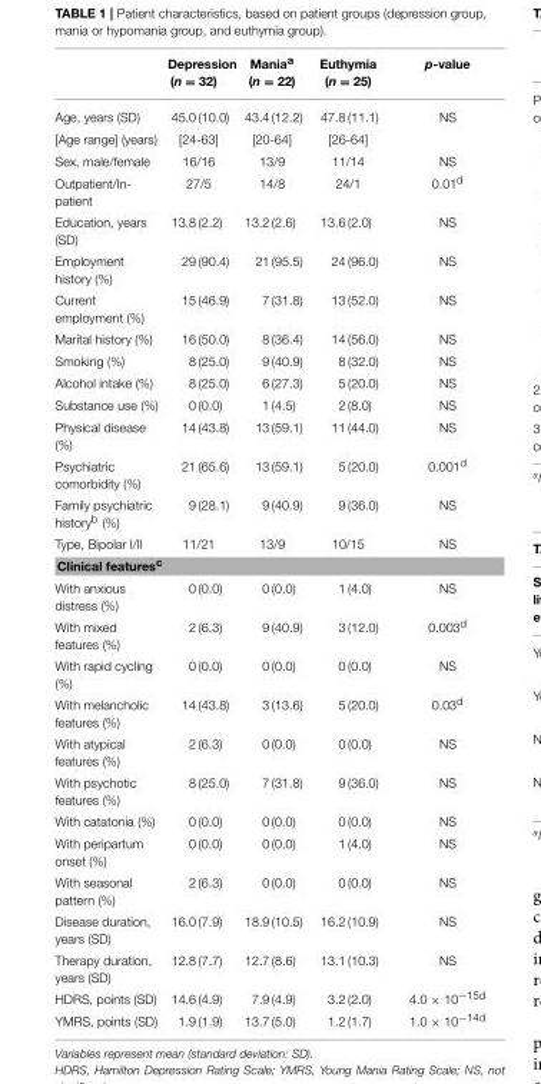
<table><thead><tr><td></td><td>Depression (n = 32)</td><td>Mania<sup>a</sup> (n = 22)</td><td>Euthymia (n = 25)</td><td>p-value</td></tr></thead><tbody><tr><td>Age, years (SD)</td><td>45.0 (10.0)</td><td>43.4 (12.2)</td><td>47.8 (11.1)</td><td>NS</td></tr><tr><td>[Age range] (years)</td><td>[24-63]</td><td>[20-64]</td><td>[26-64]</td><td></td></tr><tr><td>Sex, male/female</td><td>16/16</td><td>13/9</td><td>11/14</td><td>NS</td></tr><tr><td>Outpatient/In- patient</td><td>27/5</td><td>14/8</td><td>24/1</td><td>0.01<sup>d</sup></td></tr><tr><td>Education, years (SD)</td><td>13.8 (2.2)</td><td>13.2 (2.6)</td><td>13.6 (2.0)</td><td>NS</td></tr><tr><td>Employment history (%)</td><td>29 (90.4)</td><td>21 (95.5)</td><td>24 (96.0)</td><td>NS</td></tr><tr><td>Current employment (%)</td><td>15 (46.9)</td><td>7 (31.8)</td><td>13 (52.0)</td><td>NS</td></tr><tr><td>Marital history (%)</td><td>16 (50.0)</td><td>8 (36.4)</td><td>14 (56.0)</td><td>NS</td></tr><tr><td>Smoking (%)</td><td>8 (25.0)</td><td>9 (40.9)</td><td>8 (32.0)</td><td>NS</td></tr><tr><td>Alcohol intake (%)</td><td>8 (25.0)</td><td>6 (27.3)</td><td>5 (20.0)</td><td>NS</td></tr><tr><td>Substance use (%)</td><td>0 (0.0)</td><td>1 (4.5)</td><td>2 (8.0)</td><td>NS</td></tr><tr><td>Physical disease (%)</td><td>14 (43.8)</td><td>13 (59.1)</td><td>11 (44.0)</td><td>NS</td></tr><tr><td>Psychiatric comorbidity (%)</td><td>21 (65.6)</td><td>13 (59.1)</td><td>5 (20.0)</td><td>0.001<sup>d</sup></td></tr><tr><td>Family psychiatric history<sup>b</sup> (%)</td><td>9 (28.1)</td><td>9 (40.9)</td><td>9 (36.0)</td><td>NS</td></tr><tr><td>Type, Bipolar I/II</td><td>11/21</td><td>13/9</td><td>10/15</td><td>NS</td></tr><tr><td colspan="5">Clinical features<sup>c</sup></td></tr><tr><td>With anxious distress (%)</td><td>0 (0.0)</td><td>0 (0.0)</td><td>1 (4.0)</td><td>NS</td></tr><tr><td>With mixed features (%)</td><td>2 (6.3)</td><td>9 (40.9)</td><td>3 (12.0)</td><td>0.003<sup>d</sup></td></tr><tr><td>With rapid cycling (%)</td><td>0 (0.0)</td><td>0 (0.0)</td><td>0 (0.0)</td><td>NS</td></tr><tr><td>With melancholic features (%)</td><td>14 (43.8)</td><td>3 (13.6)</td><td>5 (20.0)</td><td>0.03<sup>d</sup></td></tr><tr><td>With atypical features (%)</td><td>2 (6.3)</td><td>0 (0.0)</td><td>0 (0.0)</td><td>NS</td></tr><tr><td>With psychotic features (%)</td><td>8 (25.0)</td><td>7 (31.8)</td><td>9 (36.0)</td><td>NS</td></tr><tr><td>With catatonia (%)</td><td>0 (0.0)</td><td>0 (0.0)</td><td>0 (0.0)</td><td>NS</td></tr><tr><td>With peripartum onset (%)</td><td>0 (0.0)</td><td>0 (0.0)</td><td>1 (4.0)</td><td>NS</td></tr><tr><td>With seasonal pattern (%)</td><td>2 (6.3)</td><td>0 (0.0)</td><td>0 (0.0)</td><td>NS</td></tr><tr><td>Disease duration, years (SD)</td><td>16.0 (7.9)</td><td>18.9 (10.5)</td><td>16.2 (10.9)</td><td>NS</td></tr><tr><td>Therapy duration, years (SD)</td><td>12.8 (7.7)</td><td>12.7 (8.6)</td><td>13.1 (10.3)</td><td>NS</td></tr><tr><td>HDRS, points (SD)</td><td>14.6 (4.9)</td><td>7.9 (4.9)</td><td>3.2 (2.0)</td><td>4.0 × 10<sup>−15d</sup></td></tr><tr><td>YMRS, points (SD)</td><td>1.9 (1.9)</td><td>13.7 (5.0)</td><td>1.2 (1.7)</td><td>1.0 × 10<sup>−14d</sup></td></tr></tbody></table>